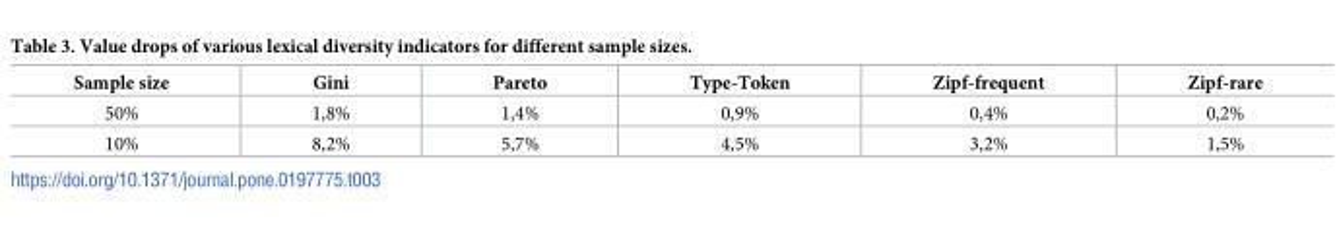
<table><thead><tr><td>Sample size</td><td>Gini</td><td>Pareto</td><td>Type-Token</td><td>Zipf-frequent</td><td>Zipf-rare</td></tr></thead><tbody><tr><td>50%</td><td>1,8%</td><td>1,4%</td><td>0,9%</td><td>0,4%</td><td>0,2%</td></tr><tr><td>10%</td><td>8,2%</td><td>5,7%</td><td>4,5%</td><td>3,2%</td><td>1,5%</td></tr></tbody></table>